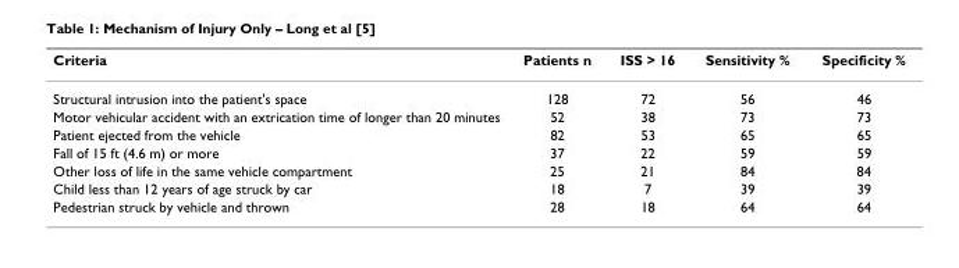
<table><thead><tr><td>Criteria</td><td>Patients n</td><td>ISS &gt; 16</td><td>Sensitivity %</td><td>Specificity %</td></tr></thead><tbody><tr><td>Structural intrusion into the patient&#x27;s space</td><td>128</td><td>72</td><td>56</td><td>46</td></tr><tr><td>Motor vehicular accident with an extrication time of longer than 20 minutes</td><td>52</td><td>38</td><td>73</td><td>73</td></tr><tr><td>Patient ejected from the vehicle</td><td>82</td><td>53</td><td>65</td><td>65</td></tr><tr><td>Fall of 15 ft (4.6 m) or more</td><td>37</td><td>22</td><td>59</td><td>59</td></tr><tr><td>Other loss of life in the same vehicle compartment</td><td>25</td><td>21</td><td>84</td><td>84</td></tr><tr><td>Child less than 12 years of age struck by car</td><td>18</td><td>7</td><td>39</td><td>39</td></tr><tr><td>Pedestrian struck by vehicle and thrown</td><td>28</td><td>18</td><td>64</td><td>64</td></tr></tbody></table>